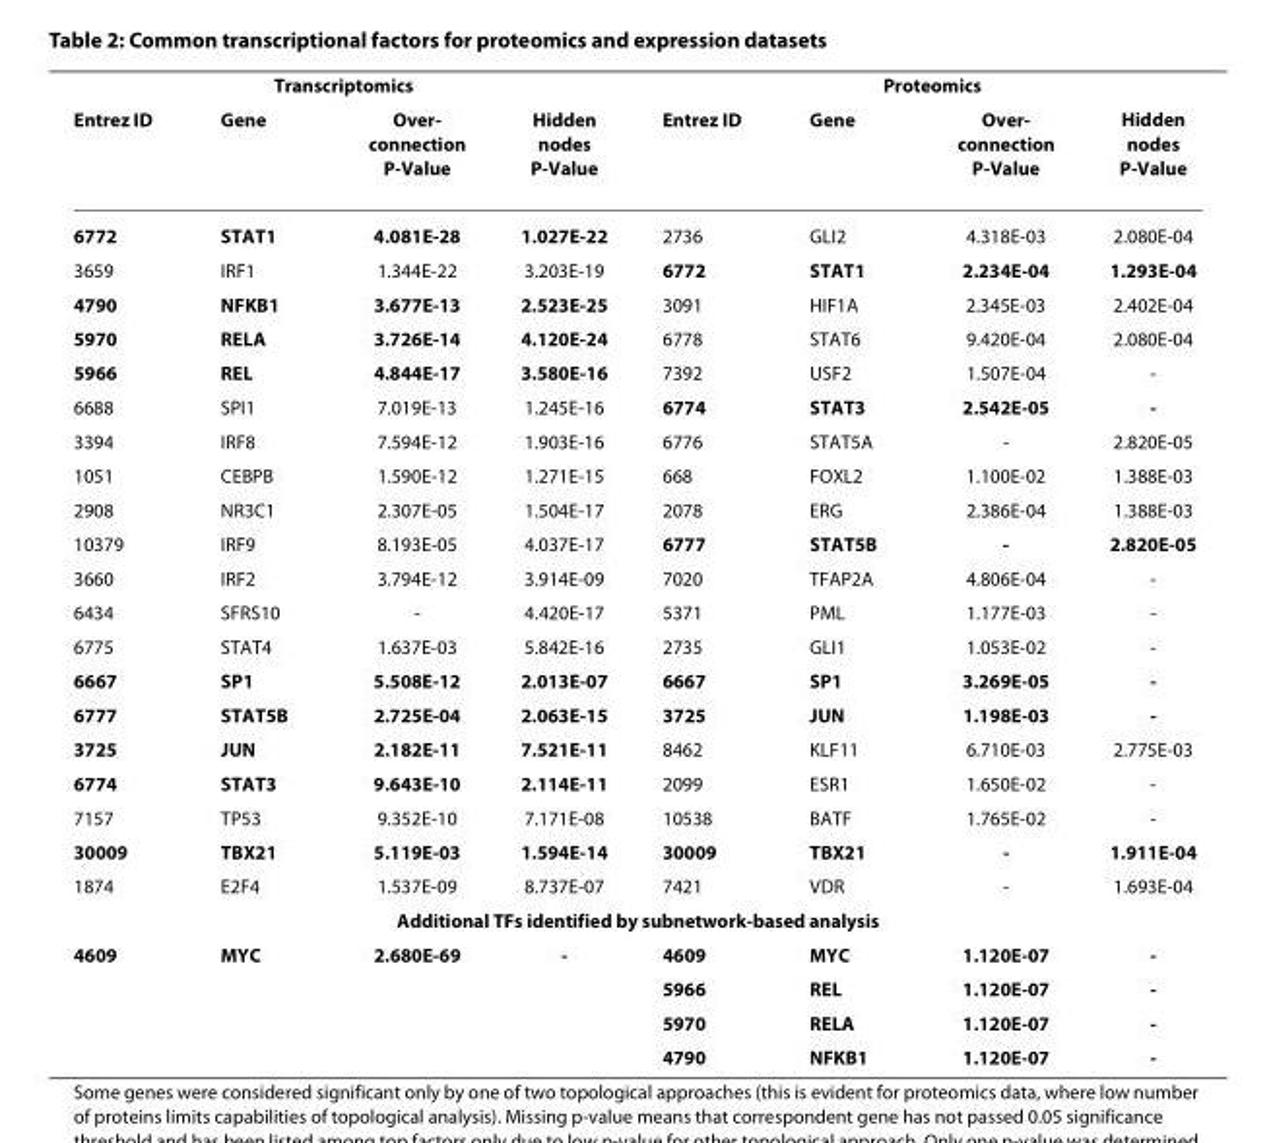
<table><thead><tr><td colspan="4">Transcriptomics</td><td colspan="4">Proteomics</td></tr><tr><td>Entrez ID</td><td>Gene</td><td>Over- connection P-Value</td><td>Hidden nodes P-Value</td><td>Entrez ID</td><td>Gene</td><td>Over- connection P-Value</td><td>Hidden nodes P-Value</td></tr></thead><tbody><tr><td>6772</td><td>STAT1</td><td>4.081E-28</td><td>1.027E-22</td><td>2736</td><td>GLI2</td><td>4.318E-03</td><td>2.080E-04</td></tr><tr><td>3659</td><td>IRF1</td><td>1.344E-22</td><td>3.203E-19</td><td>6772</td><td>STAT1</td><td>2.234E-04</td><td>1.293E-04</td></tr><tr><td>4790</td><td>NFKB1</td><td>3.677E-13</td><td>2.523E-25</td><td>3091</td><td>HIF1A</td><td>2.345E-03</td><td>2.402E-04</td></tr><tr><td>5970</td><td>RELA</td><td>3.726E-14</td><td>4.120E-24</td><td>6778</td><td>STAT6</td><td>9.420E-04</td><td>2.080E-04</td></tr><tr><td>5966</td><td>REL</td><td>4.844E-17</td><td>3.580E-16</td><td>7392</td><td>USF2</td><td>1.507E-04</td><td>-</td></tr><tr><td>6688</td><td>SPI1</td><td>7.019E-13</td><td>1.245E-16</td><td>6774</td><td>STAT3</td><td>2.542E-05</td><td>-</td></tr><tr><td>3394</td><td>IRF8</td><td>7.594E-12</td><td>1.903E-16</td><td>6776</td><td>STAT5A</td><td>-</td><td>2.820E-05</td></tr><tr><td>1051</td><td>CEBPB</td><td>1.590E-12</td><td>1.271E-15</td><td>668</td><td>FOXL2</td><td>1.100E-02</td><td>1.388E-03</td></tr><tr><td>2908</td><td>NR3C1</td><td>2.307E-05</td><td>1.504E-17</td><td>2078</td><td>ERG</td><td>2.386E-04</td><td>1.388E-03</td></tr><tr><td>10379</td><td>IRF9</td><td>8.193E-05</td><td>4.037E-17</td><td>6777</td><td>STAT5B</td><td>-</td><td>2.820E-05</td></tr><tr><td>3660</td><td>IRF2</td><td>3.794E-12</td><td>3.914E-09</td><td>7020</td><td>TFAP2A</td><td>4.806E-04</td><td>-</td></tr><tr><td>6434</td><td>SFRS10</td><td>-</td><td>4.420E-17</td><td>5371</td><td>PML</td><td>1.177E-03</td><td>-</td></tr><tr><td>6775</td><td>STAT4</td><td>1.637E-03</td><td>5.842E-16</td><td>2735</td><td>GLI1</td><td>1.053E-02</td><td>-</td></tr><tr><td>6667</td><td>SP1</td><td>5.508E-12</td><td>2.013E-07</td><td>6667</td><td>SP1</td><td>3.269E-05</td><td>-</td></tr><tr><td>6777</td><td>STAT5B</td><td>2.725E-04</td><td>2.063E-15</td><td>3725</td><td>JUN</td><td>1.198E-03</td><td>-</td></tr><tr><td>3725</td><td>JUN</td><td>2.182E-11</td><td>7.521E-11</td><td>8462</td><td>KLF11</td><td>6.710E-03</td><td>2.775E-03</td></tr><tr><td>6774</td><td>STAT3</td><td>9.643E-10</td><td>2.114E-11</td><td>2099</td><td>ESR1</td><td>1.650E-02</td><td>-</td></tr><tr><td>7157</td><td>TP53</td><td>9.352E-10</td><td>7.171E-08</td><td>10538</td><td>BATF</td><td>1.765E-02</td><td>-</td></tr><tr><td>30009</td><td>TBX21</td><td>5.119E-03</td><td>1.594E-14</td><td>30009</td><td>TBX21</td><td>-</td><td>1.911E-04</td></tr><tr><td>1874</td><td>E2F4</td><td>1.537E-09</td><td>8.737E-07</td><td>7421</td><td>VDR</td><td>-</td><td>1.693E-04</td></tr><tr><td colspan="8">Additional TFs identified by subnetwork-based analysis</td></tr><tr><td rowspan="4">4609</td><td>MYC</td><td>2.680E-69</td><td>-</td><td>4609</td><td>MYC</td><td>1.120E-07</td><td>-</td></tr><tr><td></td><td></td><td></td><td>5966</td><td>REL</td><td>1.120E-07</td><td>-</td></tr><tr><td></td><td></td><td></td><td>5970</td><td>RELA</td><td>1.120E-07</td><td>-</td></tr><tr><td></td><td></td><td></td><td>4790</td><td>NFKB1</td><td>1.120E-07</td><td>-</td></tr></tbody></table>